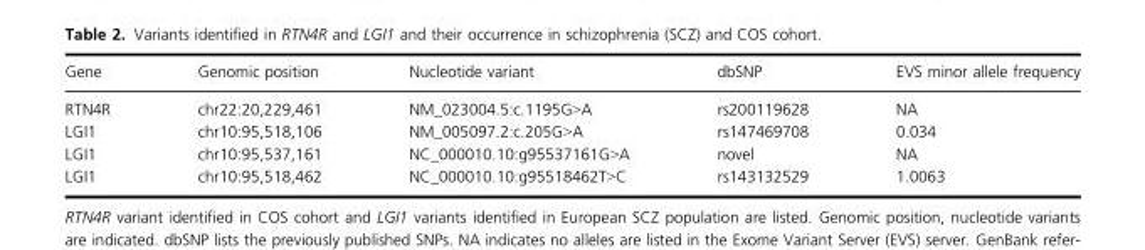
<table><thead><tr><td>Gene</td><td>Genomic position</td><td>Nucleotide variant</td><td>dbSNP</td><td>EVS minor allele frequency</td></tr></thead><tbody><tr><td>RTN4R</td><td>chr22:20,229,461</td><td>NM_023004.5:c.1195G&gt;A</td><td>rs200119628</td><td>NA</td></tr><tr><td>LGI1</td><td>chr10:95,518,106</td><td>NM_005097.2:c.205G&gt;A</td><td>rs147469708</td><td>0.034</td></tr><tr><td>LGI1</td><td>chr10:95,537,161</td><td>NC_000010.10:g95537161G&gt;A</td><td>novel</td><td>NA</td></tr><tr><td>LGI1</td><td>chr10:95,518,462</td><td>NC_000010.10:g95518462T&gt;C</td><td>rs143132529</td><td>1.0063</td></tr></tbody></table>